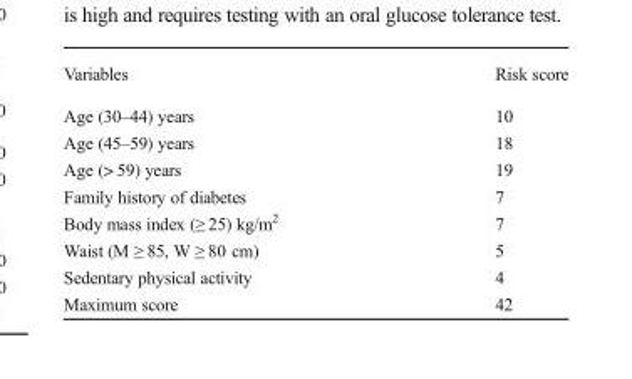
<table><thead><tr><td>Variables</td><td>Risk score</td></tr></thead><tbody><tr><td>Age (30–44) years</td><td>10</td></tr><tr><td>Age (45–59) years</td><td>18</td></tr><tr><td>Age (&gt; 59) years</td><td>19</td></tr><tr><td>Family history of diabetes</td><td>7</td></tr><tr><td>Body mass index (≥ 25) kg/m<sup>2</sup></td><td>7</td></tr><tr><td>Waist (M ≥ 85, W ≥ 80 cm)</td><td>5</td></tr><tr><td>Sedentary physical activity</td><td>4</td></tr><tr><td>Maximum score</td><td>42</td></tr></tbody></table>